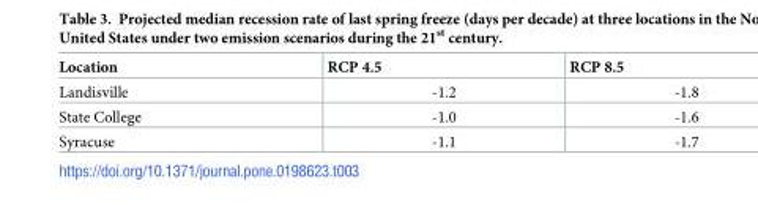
<table><thead><tr><td>Location</td><td>RCP 4.5</td><td>RCP 8.5</td></tr></thead><tbody><tr><td>Landisville</td><td>-1.2</td><td>-1.8</td></tr><tr><td>State College</td><td>-1.0</td><td>-1.6</td></tr><tr><td>Syracuse</td><td>-1.1</td><td>-1.7</td></tr></tbody></table>